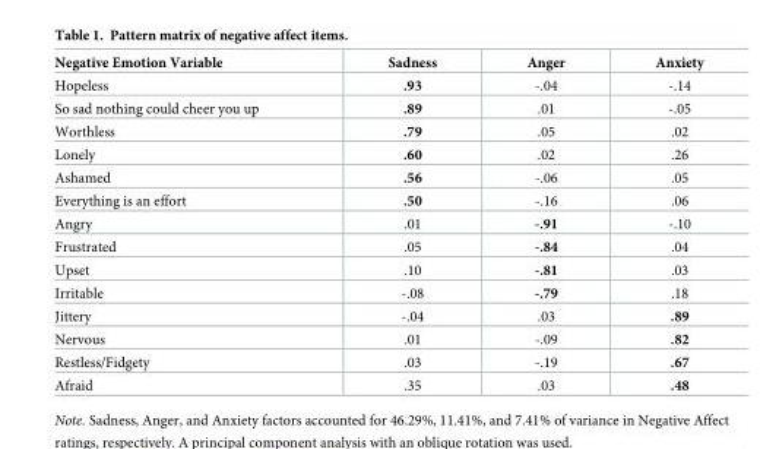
<table><thead><tr><td>Negative Emotion Variable</td><td>Sadness</td><td>Anger</td><td>Anxiety</td></tr></thead><tbody><tr><td>Hopeless</td><td>.93</td><td>-.04</td><td>-.14</td></tr><tr><td>So sad nothing could cheer you up</td><td>.89</td><td>.01</td><td>-.05</td></tr><tr><td>Worthless</td><td>.79</td><td>.05</td><td>.02</td></tr><tr><td>Lonely</td><td>.60</td><td>.02</td><td>.26</td></tr><tr><td>Ashamed</td><td>.56</td><td>-.06</td><td>.05</td></tr><tr><td>Everything is an effort</td><td>.50</td><td>-.16</td><td>.06</td></tr><tr><td>Angry</td><td>.01</td><td>-.91</td><td>-.10</td></tr><tr><td>Frustrated</td><td>.05</td><td>-.84</td><td>.04</td></tr><tr><td>Upset</td><td>.10</td><td>-.81</td><td>.03</td></tr><tr><td>Irritable</td><td>-.08</td><td>-.79</td><td>.18</td></tr><tr><td>Jittery</td><td>-.04</td><td>.03</td><td>.89</td></tr><tr><td>Nervous</td><td>.01</td><td>-.09</td><td>.82</td></tr><tr><td>Restless/Fidgety</td><td>.03</td><td>-.19</td><td>.67</td></tr><tr><td>Afraid</td><td>.35</td><td>.03</td><td>.48</td></tr></tbody></table>